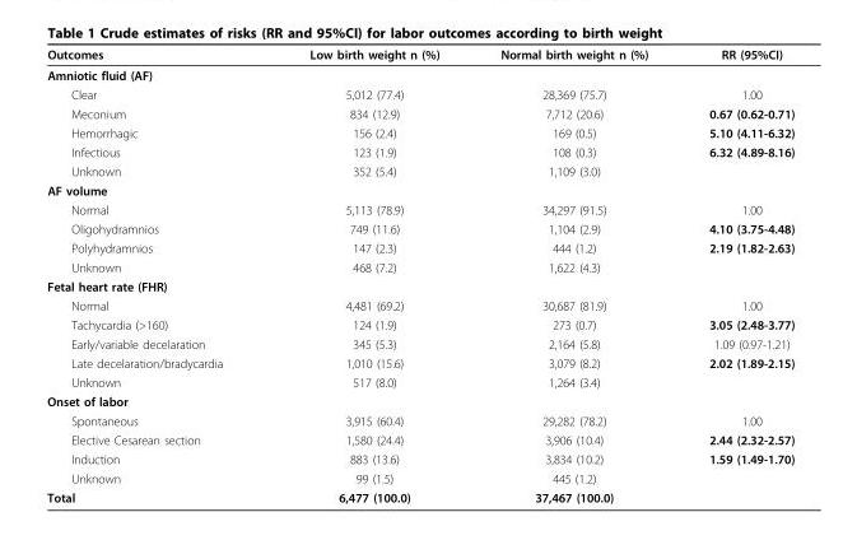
<table><thead><tr><td>Outcomes</td><td>Low birth weight n (%)</td><td>Normal birth weight n (%)</td><td>RR (95%CI)</td></tr></thead><tbody><tr><td colspan="4">Amniotic fluid (AF)</td></tr><tr><td>Clear</td><td>5,012 (77.4)</td><td>28,369 (75.7)</td><td>1.00</td></tr><tr><td>Meconium</td><td>834 (12.9)</td><td>7,712 (20.6)</td><td>0.67 (0.62-0.71)</td></tr><tr><td>Hemorrhagic</td><td>156 (2.4)</td><td>169 (0.5)</td><td>5.10 (4.11-6.32)</td></tr><tr><td>Infectious</td><td>123 (1.9)</td><td>108 (0.3)</td><td>6.32 (4.89-8.16)</td></tr><tr><td>Unknown</td><td>352 (5.4)</td><td>1,109 (3.0)</td><td></td></tr><tr><td colspan="4">AF volume</td></tr><tr><td>Normal</td><td>5,113 (78.9)</td><td>34,297 (91.5)</td><td>1.00</td></tr><tr><td>Oligohydramnios</td><td>749 (11.6)</td><td>1,104 (2.9)</td><td>4.10 (3.75-4.48)</td></tr><tr><td>Polyhydramnios</td><td>147 (2.3)</td><td>444 (1.2)</td><td>2.19 (1.82-2.63)</td></tr><tr><td>Unknown</td><td>468 (7.2)</td><td>1,622 (4.3)</td><td></td></tr><tr><td colspan="4">Fetal heart rate (FHR)</td></tr><tr><td>Normal</td><td>4,481 (69.2)</td><td>30,687 (81.9)</td><td>1.00</td></tr><tr><td>Tachycardia (&gt;160)</td><td>124 (1.9)</td><td>273 (0.7)</td><td>3.05 (2.48-3.77)</td></tr><tr><td>Early/variable decelaration</td><td>345 (5.3)</td><td>2,164 (5.8)</td><td>1.09 (0.97-1.21)</td></tr><tr><td>Late decelaration/bradycardia</td><td>1,010 (15.6)</td><td>3,079 (8.2)</td><td>2.02 (1.89-2.15)</td></tr><tr><td>Unknown</td><td>517 (8.0)</td><td>1,264 (3.4)</td><td></td></tr><tr><td colspan="4">Onset of labor</td></tr><tr><td>Spontaneous</td><td>3,915 (60.4)</td><td>29,282 (78.2)</td><td>1.00</td></tr><tr><td>Elective Cesarean section</td><td>1,580 (24.4)</td><td>3,906 (10.4)</td><td>2.44 (2.32-2.57)</td></tr><tr><td>Induction</td><td>883 (13.6)</td><td>3,834 (10.2)</td><td>1.59 (1.49-1.70)</td></tr><tr><td>Unknown</td><td>99 (1.5)</td><td>445 (1.2)</td><td></td></tr><tr><td>Total</td><td>6,477 (100.0)</td><td>37,467 (100.0)</td><td></td></tr></tbody></table>